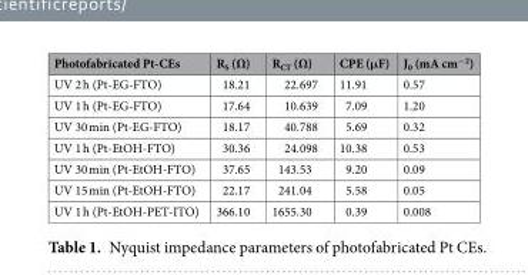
<table><thead><tr><td>Photofabricated Pt-CEs</td><td>R<sub>S</sub> (Ω)</td><td>R<sub>CT</sub> (Ω)</td><td>CPE (μF)</td><td>J<sub>0</sub> (mA cm<sup>−2</sup>)</td></tr></thead><tbody><tr><td>UV 2 h (Pt-EG-FTO)</td><td>18.21</td><td>22.697</td><td>11.91</td><td>0.57</td></tr><tr><td>UV 1 h (Pt-EG-FTO)</td><td>17.64</td><td>10.639</td><td>7.09</td><td>1.20</td></tr><tr><td>UV 30 min (Pt-EG-FTO)</td><td>18.17</td><td>40.788</td><td>5.69</td><td>0.32</td></tr><tr><td>UV 1 h (Pt-EtOH-FTO)</td><td>30.36</td><td>24.098</td><td>10.38</td><td>0.53</td></tr><tr><td>UV 30 min (Pt-EtOH-FTO)</td><td>37.65</td><td>143.53</td><td>9.20</td><td>0.09</td></tr><tr><td>UV 15 min (Pt-EtOH-FTO)</td><td>22.17</td><td>241.04</td><td>5.58</td><td>0.05</td></tr><tr><td>UV 1 h (Pt-EtOH-PET-ITO)</td><td>366.10</td><td>1655.30</td><td>0.39</td><td>0.008</td></tr></tbody></table>